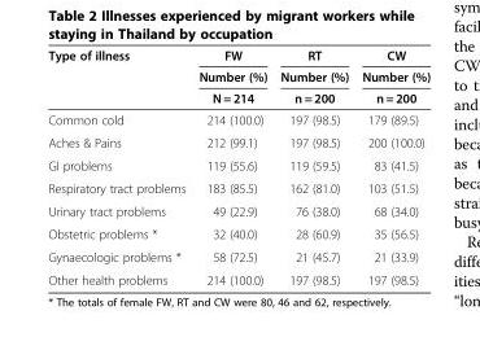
<table><thead><tr><td rowspan="3">Type of illness</td><td rowspan="3">FW Number (%) N = 214</td><td rowspan="3">RT Number (%) n = 200</td><td rowspan="3">CW Number (%) n = 200</td></tr><tr></tr><tr></tr></thead><tbody><tr><td>Common cold</td><td>214 (100.0)</td><td>197 (98.5)</td><td>179 (89.5)</td></tr><tr><td>Aches &amp; Pains</td><td>212 (99.1)</td><td>197 (98.5)</td><td>200 (100.0)</td></tr><tr><td>GI problems</td><td>119 (55.6)</td><td>119 (59.5)</td><td>83 (41.5)</td></tr><tr><td>Respiratory tract problems</td><td>183 (85.5)</td><td>162 (81.0)</td><td>103 (51.5)</td></tr><tr><td>Urinary tract problems</td><td>49 (22.9)</td><td>76 (38.0)</td><td>68 (34.0)</td></tr><tr><td>Obstetric problems *</td><td>32 (40.0)</td><td>28 (60.9)</td><td>35 (56.5)</td></tr><tr><td>Gynaecologic problems *</td><td>58 (72.5)</td><td>21 (45.7)</td><td>21 (33.9)</td></tr><tr><td>Other health problems</td><td>214 (100.0)</td><td>197 (98.5)</td><td>197 (98.5)</td></tr></tbody></table>